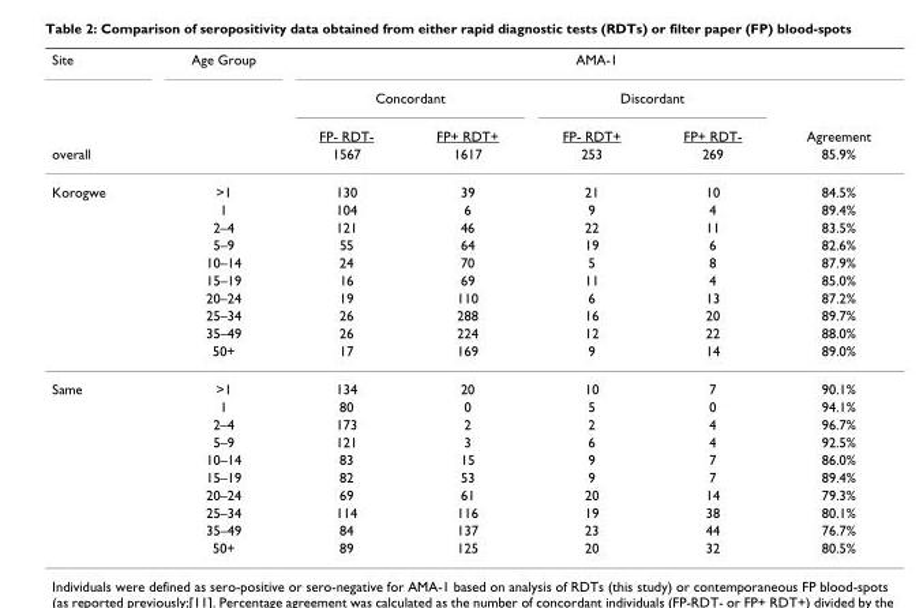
<table><thead><tr><td rowspan="4">Site overall</td><td rowspan="4">Age Group</td><td colspan="5">AMA-1</td></tr><tr><td colspan="2">Concordant</td><td colspan="2">Discordant</td><td rowspan="3">Agreement 85.9%</td></tr><tr><td rowspan="2">FP- RDT- 1567</td><td rowspan="2">FP+ RDT+ 1617</td><td rowspan="2">FP- RDT+ 253</td><td rowspan="2">FP+ RDT- 269</td></tr><tr></tr></thead><tbody><tr><td rowspan="10">Korogwe</td><td>&gt;1</td><td>130</td><td>39</td><td>21</td><td>10</td><td>84.5%</td></tr><tr><td>1</td><td>104</td><td>6</td><td>9</td><td>4</td><td>89.4%</td></tr><tr><td>2–4</td><td>121</td><td>46</td><td>22</td><td>11</td><td>83.5%</td></tr><tr><td>5–9</td><td>55</td><td>64</td><td>19</td><td>6</td><td>82.6%</td></tr><tr><td>10–14</td><td>24</td><td>70</td><td>5</td><td>8</td><td>87.9%</td></tr><tr><td>15–19</td><td>16</td><td>69</td><td>11</td><td>4</td><td>85.0%</td></tr><tr><td>20–24</td><td>19</td><td>110</td><td>6</td><td>13</td><td>87.2%</td></tr><tr><td>25–34</td><td>26</td><td>288</td><td>16</td><td>20</td><td>89.7%</td></tr><tr><td>35–49</td><td>26</td><td>224</td><td>12</td><td>22</td><td>88.0%</td></tr><tr><td>50+</td><td>17</td><td>169</td><td>9</td><td>14</td><td>89.0%</td></tr><tr><td rowspan="10">Same</td><td>&gt;1</td><td>134</td><td>20</td><td>10</td><td>7</td><td>90.1%</td></tr><tr><td>1</td><td>80</td><td>0</td><td>5</td><td>0</td><td>94.1%</td></tr><tr><td>2–4</td><td>173</td><td>2</td><td>2</td><td>4</td><td>96.7%</td></tr><tr><td>5–9</td><td>121</td><td>3</td><td>6</td><td>4</td><td>92.5%</td></tr><tr><td>10–14</td><td>83</td><td>15</td><td>9</td><td>7</td><td>86.0%</td></tr><tr><td>15–19</td><td>82</td><td>53</td><td>9</td><td>7</td><td>89.4%</td></tr><tr><td>20–24</td><td>69</td><td>61</td><td>20</td><td>14</td><td>79.3%</td></tr><tr><td>25–34</td><td>114</td><td>116</td><td>19</td><td>38</td><td>80.1%</td></tr><tr><td>35–49</td><td>84</td><td>137</td><td>23</td><td>44</td><td>76.7%</td></tr><tr><td>50+</td><td>89</td><td>125</td><td>20</td><td>32</td><td>80.5%</td></tr></tbody></table>